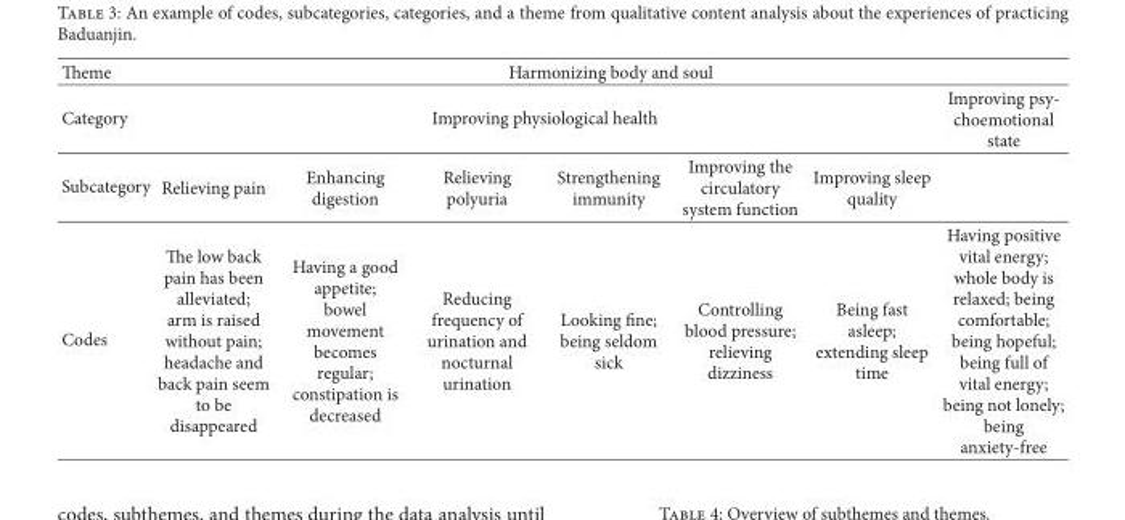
<table><thead><tr><td rowspan="3">Theme Category Subcategory</td><td colspan="7">Harmonizing body and soul</td></tr><tr><td colspan="6">Improving physiological health</td><td rowspan="2">Improving psy- choemotional state</td></tr><tr><td>Relieving pain</td><td>Enhancing digestion</td><td>Relieving polyuria</td><td>Strengthening immunity</td><td>Improving the circulatory system function</td><td>Improving sleep quality</td></tr></thead><tbody><tr><td>Codes</td><td>The low back pain has been alleviated; arm is raised without pain; headache and back pain seem to be disappeared</td><td>Having a good appetite; bowel movement becomes regular; constipation is decreased</td><td>Reducing frequency of urination and nocturnal urination</td><td>Looking fine; being seldom sick</td><td>Controlling blood pressure; relieving dizziness</td><td>Being fast asleep; extending sleep time</td><td>Having positive vital energy; whole body is relaxed; being comfortable; being hopeful; being full of vital energy; being not lonely; being anxiety-free</td></tr></tbody></table>